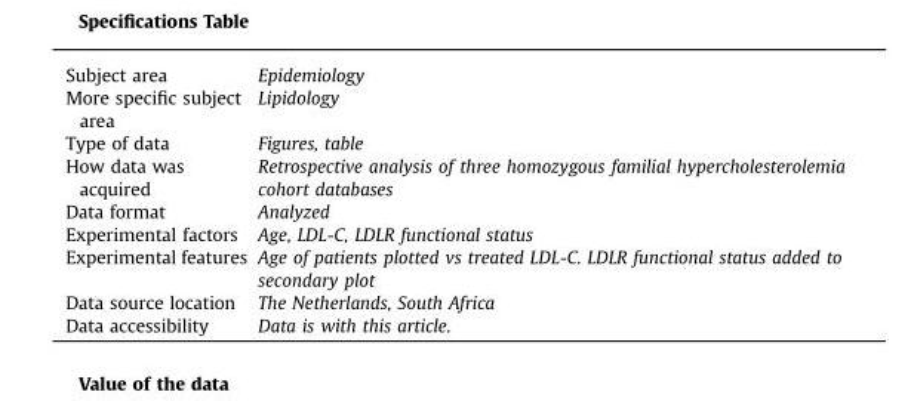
<table><tbody><tr><td>Subject area</td><td>Epidemiology</td></tr><tr><td>More specific subject area</td><td>Lipidology</td></tr><tr><td>Type of data</td><td>Figures, table</td></tr><tr><td>How data was acquired</td><td>Retrospective analysis of three homozygous familial hypercholesterolemia cohort databases</td></tr><tr><td>Data format</td><td>Analyzed</td></tr><tr><td>Experimental factors</td><td>Age, LDL-C, LDLR functional status</td></tr><tr><td>Experimental features</td><td>Age of patients plotted vs treated LDL-C. LDLR functional status added to secondary plot</td></tr><tr><td>Data source location</td><td>The Netherlands, South Africa</td></tr><tr><td>Data accessibility</td><td>Data is with this article.</td></tr></tbody></table>